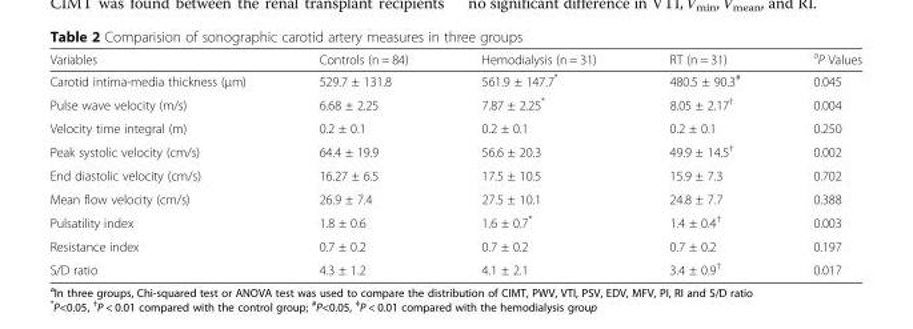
<table><thead><tr><td>Variables</td><td>Controls (n = 84)</td><td>Hemodialysis (n = 31)</td><td>RT (n = 31)</td><td><sup>a</sup>P Values</td></tr></thead><tbody><tr><td>Carotid intima-media thickness (μm)</td><td>529.7 ± 131.8</td><td>561.9 ± 147.7*</td><td>480.5 ± 90.3<sup>#</sup></td><td>0.045</td></tr><tr><td>Pulse wave velocity (m/s)</td><td>6.68 ± 2.25</td><td>7.87 ± 2.25*</td><td>8.05 ± 2.17<sup>†</sup></td><td>0.004</td></tr><tr><td>Velocity time integral (m)</td><td>0.2 ± 0.1</td><td>0.2 ± 0.1</td><td>0.2 ± 0.1</td><td>0.250</td></tr><tr><td>Peak systolic velocity (cm/s)</td><td>64.4 ± 19.9</td><td>56.6 ± 20.3</td><td>49.9 ± 14.5<sup>†</sup></td><td>0.002</td></tr><tr><td>End diastolic velocity (cm/s)</td><td>16.27 ± 6.5</td><td>17.5 ± 10.5</td><td>15.9 ± 7.3</td><td>0.702</td></tr><tr><td>Mean flow velocity (cm/s)</td><td>26.9 ± 7.4</td><td>27.5 ± 10.1</td><td>24.8 ± 7.7</td><td>0.388</td></tr><tr><td>Pulsatility index</td><td>1.8 ± 0.6</td><td>1.6 ± 0.7*</td><td>1.4 ± 0.4<sup>†</sup></td><td>0.003</td></tr><tr><td>Resistance index</td><td>0.7 ± 0.2</td><td>0.7 ± 0.2</td><td>0.7 ± 0.2</td><td>0.197</td></tr><tr><td>S/D ratio</td><td>4.3 ± 1.2</td><td>4.1 ± 2.1</td><td>3.4 ± 0.9<sup>†</sup></td><td>0.017</td></tr></tbody></table>